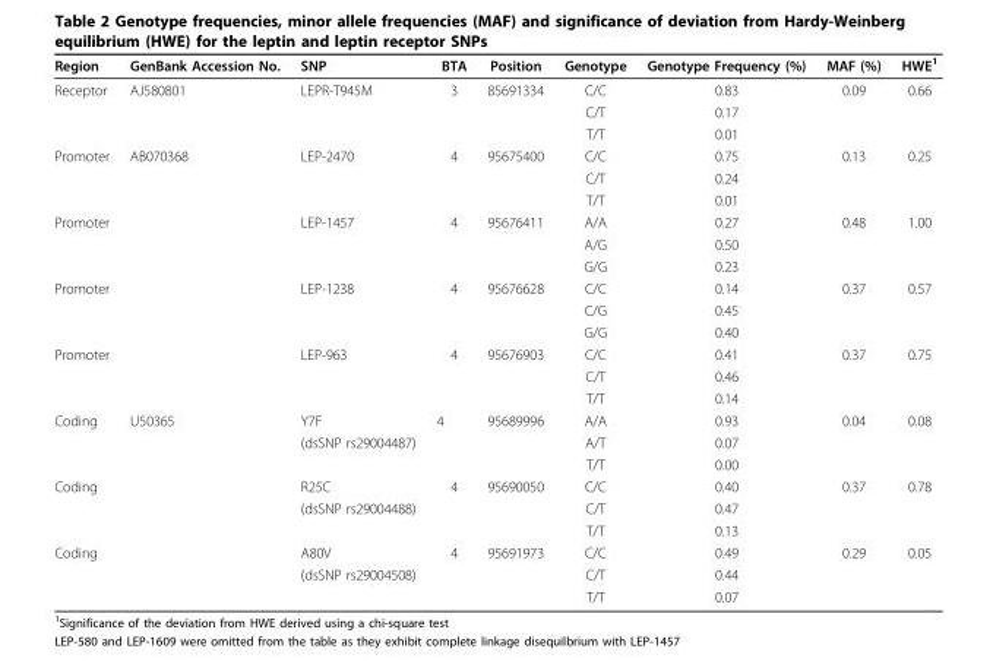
<table><thead><tr><td>Region</td><td>GenBank Accession No.</td><td>SNP</td><td>BTA</td><td>Position</td><td>Genotype</td><td>Genotype Frequency (%)</td><td>MAF (%)</td><td>HWE<sup>1</sup></td></tr></thead><tbody><tr><td rowspan="3">Receptor</td><td>AJ580801</td><td>LEPR-T945M</td><td>3</td><td>85691334</td><td>C/C</td><td>0.83</td><td>0.09</td><td>0.66</td></tr><tr><td></td><td></td><td></td><td></td><td>C/T</td><td>0.17</td><td></td><td></td></tr><tr><td></td><td></td><td></td><td></td><td>T/T</td><td>0.01</td><td></td><td></td></tr><tr><td rowspan="3">Promoter</td><td>AB070368</td><td>LEP-2470</td><td>4</td><td>95675400</td><td>C/C</td><td>0.75</td><td>0.13</td><td>0.25</td></tr><tr><td></td><td></td><td></td><td></td><td>C/T</td><td>0.24</td><td></td><td></td></tr><tr><td></td><td></td><td></td><td></td><td>T/T</td><td>0.01</td><td></td><td></td></tr><tr><td rowspan="3">Promoter</td><td></td><td>LEP-1457</td><td>4</td><td>95676411</td><td>A/A</td><td>0.27</td><td>0.48</td><td>1.00</td></tr><tr><td></td><td></td><td></td><td></td><td>A/G</td><td>0.50</td><td></td><td></td></tr><tr><td></td><td></td><td></td><td></td><td>G/G</td><td>0.23</td><td></td><td></td></tr><tr><td rowspan="3">Promoter</td><td></td><td>LEP-1238</td><td>4</td><td>95676628</td><td>C/C</td><td>0.14</td><td>0.37</td><td>0.57</td></tr><tr><td></td><td></td><td></td><td></td><td>C/G</td><td>0.45</td><td></td><td></td></tr><tr><td></td><td></td><td></td><td></td><td>G/G</td><td>0.40</td><td></td><td></td></tr><tr><td rowspan="3">Promoter</td><td></td><td>LEP-963</td><td>4</td><td>95676903</td><td>C/C</td><td>0.41</td><td>0.37</td><td>0.75</td></tr><tr><td></td><td></td><td></td><td></td><td>C/T</td><td>0.46</td><td></td><td></td></tr><tr><td></td><td></td><td></td><td></td><td>T/T</td><td>0.14</td><td></td><td></td></tr><tr><td rowspan="3">Coding</td><td>U50365</td><td>Y7F</td><td>4</td><td>95689996</td><td>A/A</td><td>0.93</td><td>0.04</td><td>0.08</td></tr><tr><td></td><td>(dsSNP rs29004487)</td><td></td><td></td><td>A/T</td><td>0.07</td><td></td><td></td></tr><tr><td></td><td></td><td></td><td></td><td>T/T</td><td>0.00</td><td></td><td></td></tr><tr><td rowspan="3">Coding</td><td></td><td>R25C</td><td>4</td><td>95690050</td><td>C/C</td><td>0.40</td><td>0.37</td><td>0.78</td></tr><tr><td></td><td>(dsSNP rs29004488)</td><td></td><td></td><td>C/T</td><td>0.47</td><td></td><td></td></tr><tr><td></td><td></td><td></td><td></td><td>T/T</td><td>0.13</td><td></td><td></td></tr><tr><td rowspan="3">Coding</td><td></td><td>A80V</td><td>4</td><td>95691973</td><td>C/C</td><td>0.49</td><td>0.29</td><td>0.05</td></tr><tr><td></td><td>(dsSNP rs29004508)</td><td></td><td></td><td>C/T</td><td>0.44</td><td></td><td></td></tr><tr><td></td><td></td><td></td><td></td><td>T/T</td><td>0.07</td><td></td><td></td></tr></tbody></table>